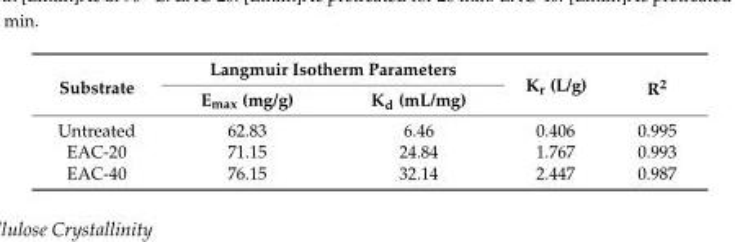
<table><thead><tr><td rowspan="2">Substrate</td><td colspan="2">Langmuir Isotherm Parameters</td><td rowspan="2">K<sub>r</sub> (L/g)</td><td rowspan="2">R<sup>2</sup></td></tr><tr><td>E<sub>max</sub> (mg/g)</td><td>K<sub>d</sub> (mL/mg)</td></tr></thead><tbody><tr><td>Untreated</td><td>62.83</td><td>6.46</td><td>0.406</td><td>0.995</td></tr><tr><td>EAC-20</td><td>71.15</td><td>24.84</td><td>1.767</td><td>0.993</td></tr><tr><td>EAC-40</td><td>76.15</td><td>32.14</td><td>2.447</td><td>0.987</td></tr></tbody></table>